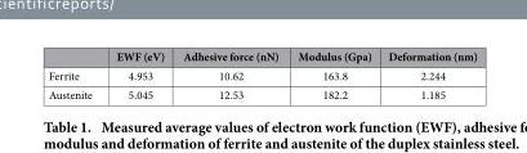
<table><thead><tr><td></td><td>EWF (eV)</td><td>Adhesive force (nN)</td><td>Modulus (Gpa)</td><td>Deformation (nm)</td></tr></thead><tbody><tr><td>Ferrite</td><td>4.953</td><td>10.62</td><td>163.8</td><td>2.244</td></tr><tr><td>Austenite</td><td>5.045</td><td>12.53</td><td>182.2</td><td>1.185</td></tr></tbody></table>